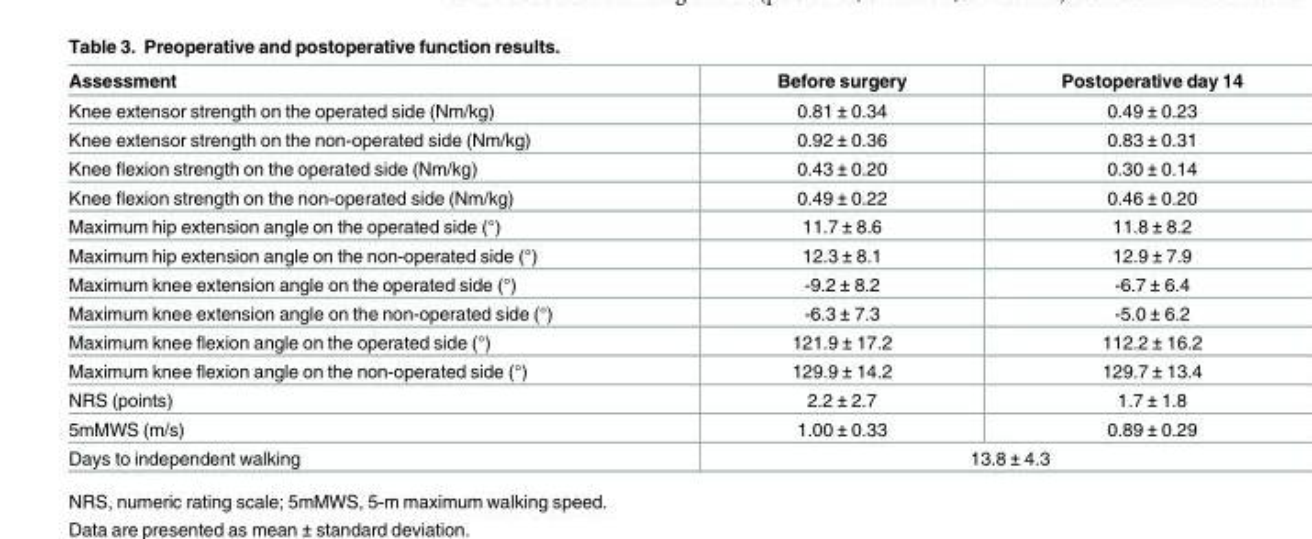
<table><thead><tr><td>Assessment</td><td>Before surgery</td><td>Postoperative day 14</td></tr></thead><tbody><tr><td>Knee extensor strength on the operated side (Nm/kg)</td><td>0.81 ± 0.34</td><td>0.49 ± 0.23</td></tr><tr><td>Knee extensor strength on the non-operated side (Nm/kg)</td><td>0.92 ± 0.36</td><td>0.83 ± 0.31</td></tr><tr><td>Knee flexion strength on the operated side (Nm/kg)</td><td>0.43 ± 0.20</td><td>0.30 ± 0.14</td></tr><tr><td>Knee flexion strength on the non-operated side (Nm/kg)</td><td>0.49 ± 0.22</td><td>0.46 ± 0.20</td></tr><tr><td>Maximum hip extension angle on the operated side (°)</td><td>11.7 ± 8.6</td><td>11.8 ± 8.2</td></tr><tr><td>Maximum hip extension angle on the non-operated side (°)</td><td>12.3 ± 8.1</td><td>12.9 ± 7.9</td></tr><tr><td>Maximum knee extension angle on the operated side (°)</td><td>-9.2 ± 8.2</td><td>-6.7 ± 6.4</td></tr><tr><td>Maximum knee extension angle on the non-operated side (°)</td><td>-6.3 ± 7.3</td><td>-5.0 ± 6.2</td></tr><tr><td>Maximum knee flexion angle on the operated side (°)</td><td>121.9 ± 17.2</td><td>112.2 ± 16.2</td></tr><tr><td>Maximum knee flexion angle on the non-operated side (°)</td><td>129.9 ± 14.2</td><td>129.7 ± 13.4</td></tr><tr><td>NRS (points)</td><td>2.2 ± 2.7</td><td>1.7 ± 1.8</td></tr><tr><td>5mMWS (m/s)</td><td>1.00 ± 0.33</td><td>0.89 ± 0.29</td></tr><tr><td>Days to independent walking</td><td colspan="2">13.8 ± 4.3</td></tr></tbody></table>